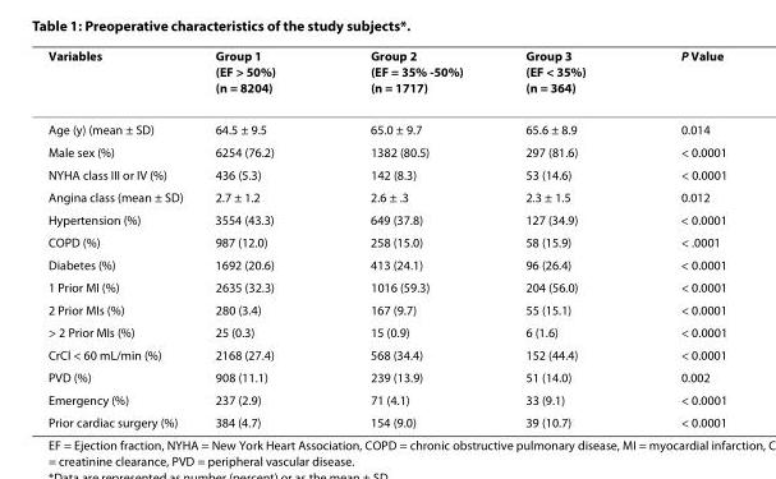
<table><thead><tr><td>Variables</td><td>Group 1 (EF &gt; 50%) (n = 8204)</td><td>Group 2 (EF = 35% -50%) (n = 1717)</td><td>Group 3 (EF &lt; 35%) (n = 364)</td><td>P Value</td></tr></thead><tbody><tr><td>Age (y) (mean ± SD)</td><td>64.5 ± 9.5</td><td>65.0 ± 9.7</td><td>65.6 ± 8.9</td><td>0.014</td></tr><tr><td>Male sex (%)</td><td>6254 (76.2)</td><td>1382 (80.5)</td><td>297 (81.6)</td><td>&lt; 0.0001</td></tr><tr><td>NYHA class III or IV (%)</td><td>436 (5.3)</td><td>142 (8.3)</td><td>53 (14.6)</td><td>&lt; 0.0001</td></tr><tr><td>Angina class (mean ± SD)</td><td>2.7 ± 1.2</td><td>2.6 ± .3</td><td>2.3 ± 1.5</td><td>0.012</td></tr><tr><td>Hypertension (%)</td><td>3554 (43.3)</td><td>649 (37.8)</td><td>127 (34.9)</td><td>&lt; 0.0001</td></tr><tr><td>COPD (%)</td><td>987 (12.0)</td><td>258 (15.0)</td><td>58 (15.9)</td><td>&lt; .0001</td></tr><tr><td>Diabetes (%)</td><td>1692 (20.6)</td><td>413 (24.1)</td><td>96 (26.4)</td><td>&lt; 0.0001</td></tr><tr><td>1 Prior MI (%)</td><td>2635 (32.3)</td><td>1016 (59.3)</td><td>204 (56.0)</td><td>&lt; 0.0001</td></tr><tr><td>2 Prior MIs (%)</td><td>280 (3.4)</td><td>167 (9.7)</td><td>55 (15.1)</td><td>&lt; 0.0001</td></tr><tr><td>&gt; 2 Prior MIs (%)</td><td>25 (0.3)</td><td>15 (0.9)</td><td>6 (1.6)</td><td>&lt; 0.0001</td></tr><tr><td>CrCl &lt; 60 mL/min (%)</td><td>2168 (27.4)</td><td>568 (34.4)</td><td>152 (44.4)</td><td>&lt; 0.0001</td></tr><tr><td>PVD (%)</td><td>908 (11.1)</td><td>239 (13.9)</td><td>51 (14.0)</td><td>0.002</td></tr><tr><td>Emergency (%)</td><td>237 (2.9)</td><td>71 (4.1)</td><td>33 (9.1)</td><td>&lt; 0.0001</td></tr><tr><td>Prior cardiac surgery (%)</td><td>384 (4.7)</td><td>154 (9.0)</td><td>39 (10.7)</td><td>&lt; 0.0001</td></tr></tbody></table>